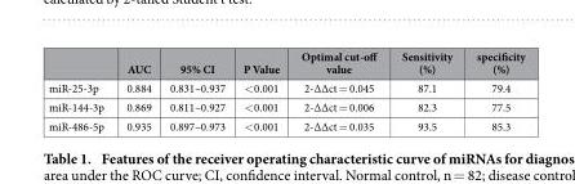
<table><thead><tr><td></td><td>AUC</td><td>95% CI</td><td>P Value</td><td>Optimal cut-off value</td><td>Sensitivity (%)</td><td>specificity (%)</td></tr></thead><tbody><tr><td>miR-25-3p</td><td>0.884</td><td>0.831–0.937</td><td>&lt; 0.001</td><td>2-ΔΔct = 0.045</td><td>87.1</td><td>79.4</td></tr><tr><td>miR-144-3p</td><td>0.869</td><td>0.811–0.927</td><td>&lt; 0.001</td><td>2-ΔΔct = 0.006</td><td>82.3</td><td>77.5</td></tr><tr><td>miR-486-5p</td><td>0.935</td><td>0.897–0.973</td><td>&lt; 0.001</td><td>2-ΔΔct = 0.035</td><td>93.5</td><td>85.3</td></tr></tbody></table>